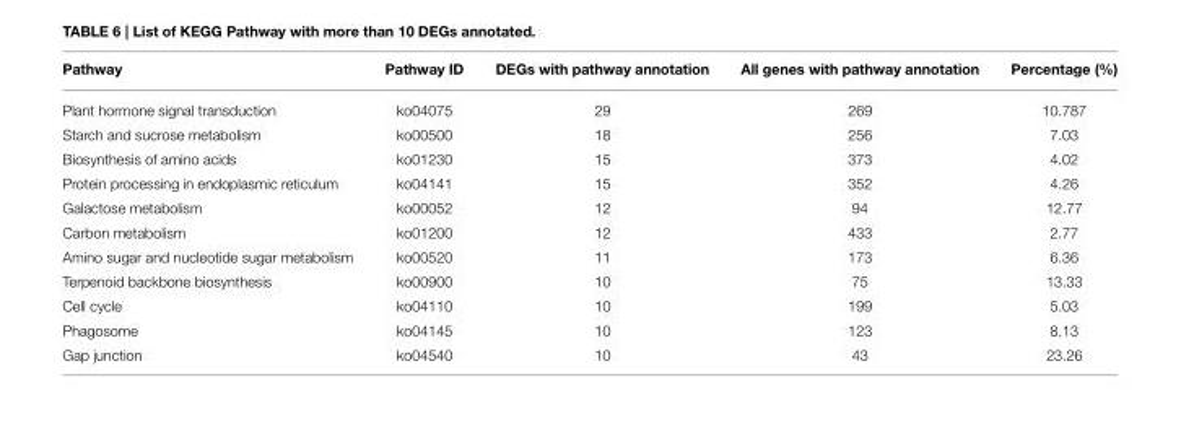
<table><thead><tr><td>Pathway</td><td>Pathway ID</td><td>DEGs with pathway annotation</td><td>All genes with pathway annotation</td><td>Percentage (%)</td></tr></thead><tbody><tr><td>Plant hormone signal transduction</td><td>ko04075</td><td>29</td><td>269</td><td>10.787</td></tr><tr><td>Starch and sucrose metabolism</td><td>ko00500</td><td>18</td><td>256</td><td>7.03</td></tr><tr><td>Biosynthesis of amino acids</td><td>ko01230</td><td>15</td><td>373</td><td>4.02</td></tr><tr><td>Protein processing in endoplasmic reticulum</td><td>ko04141</td><td>15</td><td>352</td><td>4.26</td></tr><tr><td>Galactose metabolism</td><td>ko00052</td><td>12</td><td>94</td><td>12.77</td></tr><tr><td>Carbon metabolism</td><td>ko01200</td><td>12</td><td>433</td><td>2.77</td></tr><tr><td>Amino sugar and nucleotide sugar metabolism</td><td>ko00520</td><td>11</td><td>173</td><td>6.36</td></tr><tr><td>Terpenoid backbone biosynthesis</td><td>ko00900</td><td>10</td><td>75</td><td>13.33</td></tr><tr><td>Cell cycle</td><td>ko04110</td><td>10</td><td>199</td><td>5.03</td></tr><tr><td>Phagosome</td><td>ko04145</td><td>10</td><td>123</td><td>8.13</td></tr><tr><td>Gap junction</td><td>ko04540</td><td>10</td><td>43</td><td>23.26</td></tr></tbody></table>